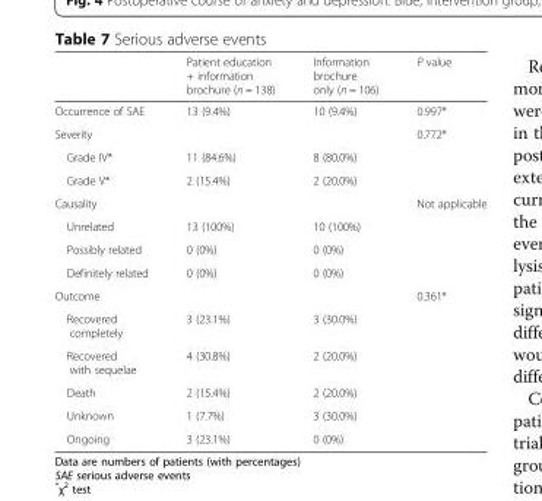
<table><thead><tr><td></td><td>Patient education + information brochure (n = 138)</td><td>Information brochure only (n = 106)</td><td>P value</td></tr></thead><tbody><tr><td>Occurrence of SAE</td><td>13 (9.4%)</td><td>10 (9.4%)</td><td>0.997*</td></tr><tr><td>Severity</td><td></td><td></td><td>0.772*</td></tr><tr><td>Grade IV*</td><td>11 (84.6%)</td><td>8 (80.0%)</td><td></td></tr><tr><td>Grade V*</td><td>2 (15.4%)</td><td>2 (20.0%)</td><td></td></tr><tr><td>Causality</td><td></td><td></td><td>Not applicable</td></tr><tr><td>Unrelated</td><td>13 (100%)</td><td>10 (100%)</td><td></td></tr><tr><td>Possibly related</td><td>0 (0%)</td><td>0 (0%)</td><td></td></tr><tr><td>Definitely related</td><td>0 (0%)</td><td>0 (0%)</td><td></td></tr><tr><td>Outcome</td><td></td><td></td><td>0.361*</td></tr><tr><td>Recovered completely</td><td>3 (23.1%)</td><td>3 (30.0%)</td><td></td></tr><tr><td>Recovered with sequelae</td><td>4 (30.8%)</td><td>2 (20.0%)</td><td></td></tr><tr><td>Death</td><td>2 (15.4%)</td><td>2 (20.0%)</td><td></td></tr><tr><td>Unknown</td><td>1 (7.7%)</td><td>3 (30.0%)</td><td></td></tr><tr><td>Ongoing</td><td>3 (23.1%)</td><td>0 (0%)</td><td></td></tr></tbody></table>